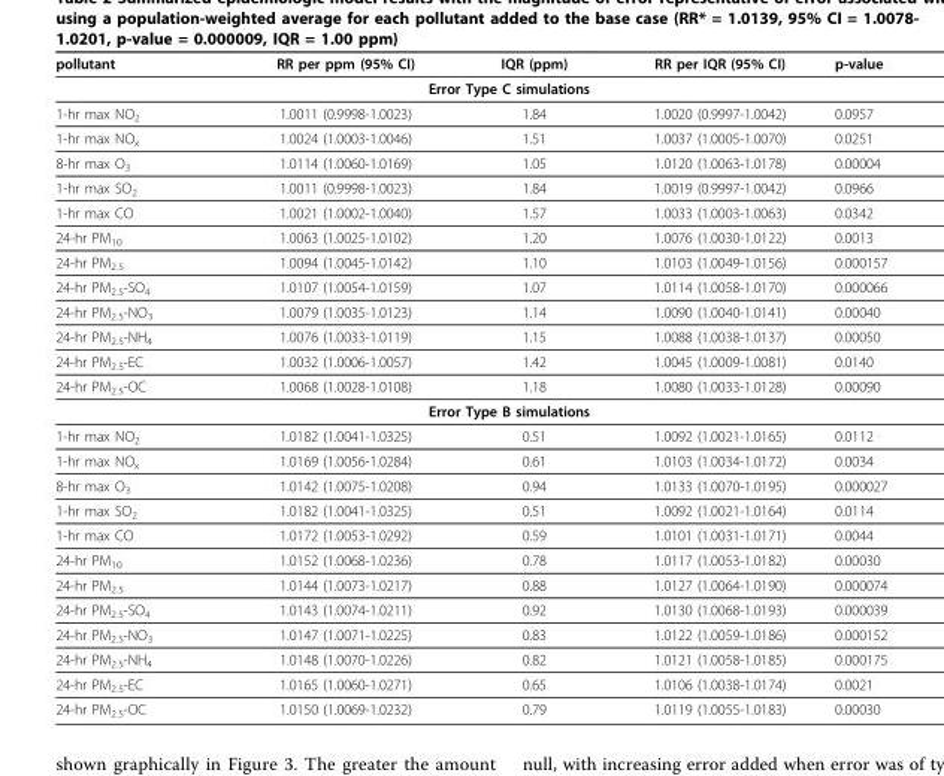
<table><thead><tr><td>pollutant</td><td>RR per ppm (95% CI)</td><td>IQR (ppm)</td><td>RR per IQR (95% CI)</td><td>p-value</td></tr></thead><tbody><tr><td colspan="5">Error Type C simulations</td></tr><tr><td>1-hr max NO<sub>2</sub></td><td>1.0011 (0.9998-1.0023)</td><td>1.84</td><td>1.0020 (0.9997-1.0042)</td><td>0.0957</td></tr><tr><td>1-hr max NO<sub>x</sub></td><td>1.0024 (1.0003-1.0046)</td><td>1.51</td><td>1.0037 (1.0005-1.0070)</td><td>0.0251</td></tr><tr><td>8-hr max O<sub>3</sub></td><td>1.0114 (1.0060-1.0169)</td><td>1.05</td><td>1.0120 (1.0063-1.0178)</td><td>0.00004</td></tr><tr><td>1-hr max SO<sub>2</sub></td><td>1.0011 (0.9998-1.0023)</td><td>1.84</td><td>1.0019 (0.9997-1.0042)</td><td>0.0966</td></tr><tr><td>1-hr max CO</td><td>1.0021 (1.0002-1.0040)</td><td>1.57</td><td>1.0033 (1.0003-1.0063)</td><td>0.0342</td></tr><tr><td>24-hr PM<sub>10</sub></td><td>1.0063 (1.0025-1.0102)</td><td>1.20</td><td>1.0076 (1.0030-1.0122)</td><td>0.0013</td></tr><tr><td>24-hr PM<sub>2.5</sub></td><td>1.0094 (1.0045-1.0142)</td><td>1.10</td><td>1.0103 (1.0049-1.0156)</td><td>0.000157</td></tr><tr><td>24-hr PM<sub>2.5</sub>-SO<sub>4</sub></td><td>1.0107 (1.0054-1.0159)</td><td>1.07</td><td>1.0114 (1.0058-1.0170)</td><td>0.000066</td></tr><tr><td>24-hr PM<sub>2.5</sub>-NO<sub>3</sub></td><td>1.0079 (1.0035-1.0123)</td><td>1.14</td><td>1.0090 (1.0040-1.0141)</td><td>0.00040</td></tr><tr><td>24-hr PM<sub>2.5</sub>-NH<sub>4</sub></td><td>1.0076 (1.0033-1.0119)</td><td>1.15</td><td>1.0088 (1.0038-1.0137)</td><td>0.00050</td></tr><tr><td>24-hr PM<sub>2.5</sub>-EC</td><td>1.0032 (1.0006-1.0057)</td><td>1.42</td><td>1.0045 (1.0009-1.0081)</td><td>0.0140</td></tr><tr><td>24-hr PM<sub>2.5</sub>-OC</td><td>1.0068 (1.0028-1.0108)</td><td>1.18</td><td>1.0080 (1.0033-1.0128)</td><td>0.00090</td></tr><tr><td colspan="5">Error Type B simulations</td></tr><tr><td>1-hr max NO<sub>2</sub></td><td>1.0182 (1.0041-1.0325)</td><td>0.51</td><td>1.0092 (1.0021-1.0165)</td><td>0.0112</td></tr><tr><td>1-hr max NO<sub>x</sub></td><td>1.0169 (1.0056-1.0284)</td><td>0.61</td><td>1.0103 (1.0034-1.0172)</td><td>0.0034</td></tr><tr><td>8-hr max O<sub>3</sub></td><td>1.0142 (1.0075-1.0208)</td><td>0.94</td><td>1.0133 (1.0070-1.0195)</td><td>0.000027</td></tr><tr><td>1-hr max SO<sub>2</sub></td><td>1.0182 (1.0041-1.0325)</td><td>0.51</td><td>1.0092 (1.0021-1.0164)</td><td>0.0114</td></tr><tr><td>1-hr max CO</td><td>1.0172 (1.0053-1.0292)</td><td>0.59</td><td>1.0101 (1.0031-1.0171)</td><td>0.0044</td></tr><tr><td>24-hr PM<sub>10</sub></td><td>1.0152 (1.0068-1.0236)</td><td>0.78</td><td>1.0117 (1.0053-1.0182)</td><td>0.00030</td></tr><tr><td>24-hr PM<sub>2.5</sub></td><td>1.0144 (1.0073-1.0217)</td><td>0.88</td><td>1.0127 (1.0064-1.0190)</td><td>0.000074</td></tr><tr><td>24-hr PM<sub>2.5</sub>-SO<sub>4</sub></td><td>1.0143 (1.0074-1.0211)</td><td>0.92</td><td>1.0130 (1.0068-1.0193)</td><td>0.000039</td></tr><tr><td>24-hr PM<sub>2.5</sub>-NO<sub>3</sub></td><td>1.0147 (1.0071-1.0225)</td><td>0.83</td><td>1.0122 (1.0059-1.0186)</td><td>0.000152</td></tr><tr><td>24-hr PM<sub>2.5</sub>-NH<sub>4</sub></td><td>1.0148 (1.0070-1.0226)</td><td>0.82</td><td>1.0121 (1.0058-1.0185)</td><td>0.000175</td></tr><tr><td>24-hr PM<sub>2.5</sub>-EC</td><td>1.0165 (1.0060-1.0271)</td><td>0.65</td><td>1.0106 (1.0038-1.0174)</td><td>0.0021</td></tr><tr><td>24-hr PM<sub>2.5</sub>-OC</td><td>1.0150 (1.0069-1.0232)</td><td>0.79</td><td>1.0119 (1.0055-1.0183)</td><td>0.00030</td></tr></tbody></table>